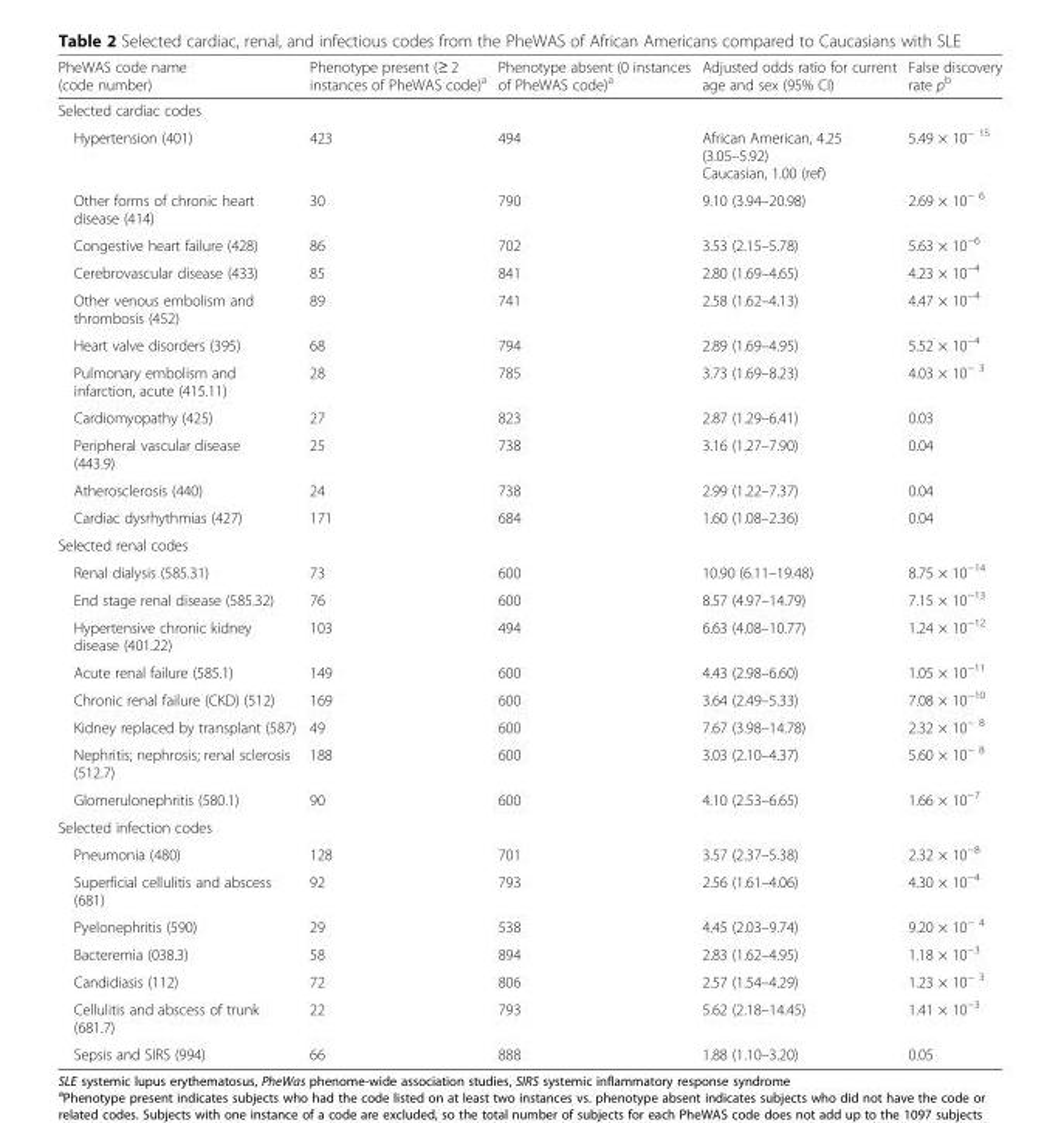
<table><thead><tr><td>PheWAS code name (code number)</td><td>Phenotype present (≥ 2 instances of PheWAS code)<sup>a</sup></td><td>Phenotype absent (0 instances of PheWAS code)<sup>a</sup></td><td>Adjusted odds ratio for current age and sex (95% CI)</td><td>False discovery rate p<sup>b</sup></td></tr></thead><tbody><tr><td colspan="5">Selected cardiac codes</td></tr><tr><td>Hypertension (401)</td><td>423</td><td>494</td><td>African American, 4.25 (3.05–5.92) Caucasian, 1.00 (ref)</td><td>5.49 × 10<sup>− 15</sup></td></tr><tr><td>Other forms of chronic heart disease (414)</td><td>30</td><td>790</td><td>9.10 (3.94–20.98)</td><td>2.69 × 10<sup>− 6</sup></td></tr><tr><td>Congestive heart failure (428)</td><td>86</td><td>702</td><td>3.53 (2.15–5.78)</td><td>5.63 × 10<sup>−6</sup></td></tr><tr><td>Cerebrovascular disease (433)</td><td>85</td><td>841</td><td>2.80 (1.69–4.65)</td><td>4.23 × 10<sup>−4</sup></td></tr><tr><td>Other venous embolism and thrombosis (452)</td><td>89</td><td>741</td><td>2.58 (1.62–4.13)</td><td>4.47 × 10<sup>−4</sup></td></tr><tr><td>Heart valve disorders (395)</td><td>68</td><td>794</td><td>2.89 (1.69–4.95)</td><td>5.52 × 10<sup>−4</sup></td></tr><tr><td>Pulmonary embolism and infarction, acute (415.11)</td><td>28</td><td>785</td><td>3.73 (1.69–8.23)</td><td>4.03 × 10<sup>− 3</sup></td></tr><tr><td>Cardiomyopathy (425)</td><td>27</td><td>823</td><td>2.87 (1.29–6.41)</td><td>0.03</td></tr><tr><td>Peripheral vascular disease (443.9)</td><td>25</td><td>738</td><td>3.16 (1.27–7.90)</td><td>0.04</td></tr><tr><td>Atherosclerosis (440)</td><td>24</td><td>738</td><td>2.99 (1.22–7.37)</td><td>0.04</td></tr><tr><td>Cardiac dysrhythmias (427)</td><td>171</td><td>684</td><td>1.60 (1.08–2.36)</td><td>0.04</td></tr><tr><td colspan="5">Selected renal codes</td></tr><tr><td>Renal dialysis (585.31)</td><td>73</td><td>600</td><td>10.90 (6.11–19.48)</td><td>8.75 × 10<sup>−14</sup></td></tr><tr><td>End stage renal disease (585.32)</td><td>76</td><td>600</td><td>8.57 (4.97–14.79)</td><td>7.15 × 10<sup>−13</sup></td></tr><tr><td>Hypertensive chronic kidney disease (401.22)</td><td>103</td><td>494</td><td>6.63 (4.08–10.77)</td><td>1.24 × 10<sup>−12</sup></td></tr><tr><td>Acute renal failure (585.1)</td><td>149</td><td>600</td><td>4.43 (2.98–6.60)</td><td>1.05 × 10<sup>−11</sup></td></tr><tr><td>Chronic renal failure (CKD) (512)</td><td>169</td><td>600</td><td>3.64 (2.49–5.33)</td><td>7.08 × 10<sup>−10</sup></td></tr><tr><td>Kidney replaced by transplant (587)</td><td>49</td><td>600</td><td>7.67 (3.98–14.78)</td><td>2.32 × 10<sup>− 8</sup></td></tr><tr><td>Nephritis; nephrosis; renal sclerosis (512.7)</td><td>188</td><td>600</td><td>3.03 (2.10–4.37)</td><td>5.60 × 10<sup>− 8</sup></td></tr><tr><td>Glomerulonephritis (580.1)</td><td>90</td><td>600</td><td>4.10 (2.53–6.65)</td><td>1.66 × 10<sup>−7</sup></td></tr><tr><td colspan="5">Selected infection codes</td></tr><tr><td>Pneumonia (480)</td><td>128</td><td>701</td><td>3.57 (2.37–5.38)</td><td>2.32 × 10<sup>−8</sup></td></tr><tr><td>Superficial cellulitis and abscess (681)</td><td>92</td><td>793</td><td>2.56 (1.61–4.06)</td><td>4.30 × 10<sup>−4</sup></td></tr><tr><td>Pyelonephritis (590)</td><td>29</td><td>538</td><td>4.45 (2.03–9.74)</td><td>9.20 × 10<sup>− 4</sup></td></tr><tr><td>Bacteremia (038.3)</td><td>58</td><td>894</td><td>2.83 (1.62–4.95)</td><td>1.18 × 10<sup>−3</sup></td></tr><tr><td>Candidiasis (112)</td><td>72</td><td>806</td><td>2.57 (1.54–4.29)</td><td>1.23 × 10<sup>− 3</sup></td></tr><tr><td>Cellulitis and abscess of trunk (681.7)</td><td>22</td><td>793</td><td>5.62 (2.18–14.45)</td><td>1.41 × 10<sup>−3</sup></td></tr><tr><td>Sepsis and SIRS (994)</td><td>66</td><td>888</td><td>1.88 (1.10–3.20)</td><td>0.05</td></tr></tbody></table>